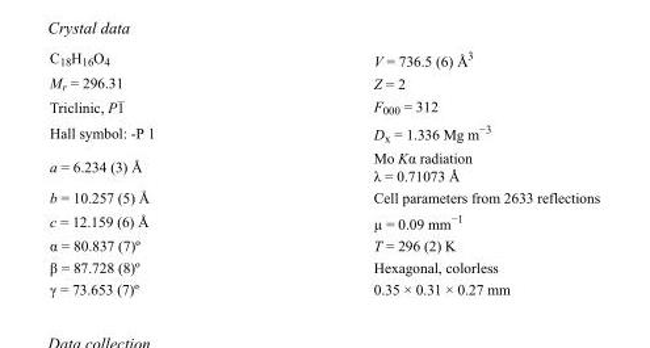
<table><tbody><tr><td>C<sub>18</sub>H<sub>16</sub>O<sub>4</sub></td><td>V = 736.5 (6) Å<sup>3</sup></td></tr><tr><td>M<sub>r</sub> = 296.31</td><td>Z = 2</td></tr><tr><td>Triclinic, P1</td><td>F<sub>000</sub> = 312</td></tr><tr><td>Hall symbol: -P 1</td><td>D<sub>x</sub> = 1.336 Mg m<sup>−3</sup></td></tr><tr><td>a = 6.234 (3) Å</td><td>Mo Kα radiation λ = 0.71073 Å</td></tr><tr><td>b = 10.257 (5) Å</td><td>Cell parameters from 2633 reflections</td></tr><tr><td>c = 12.159 (6) Å</td><td>µ = 0.09 mm<sup>−1</sup></td></tr><tr><td>α = 80.837 (7)º</td><td>T = 296 (2) K</td></tr><tr><td>β = 87.728 (8)º</td><td>Hexagonal, colorless</td></tr><tr><td>γ = 73.653 (7)º</td><td>0.35 × 0.31 × 0.27 mm</td></tr></tbody></table>